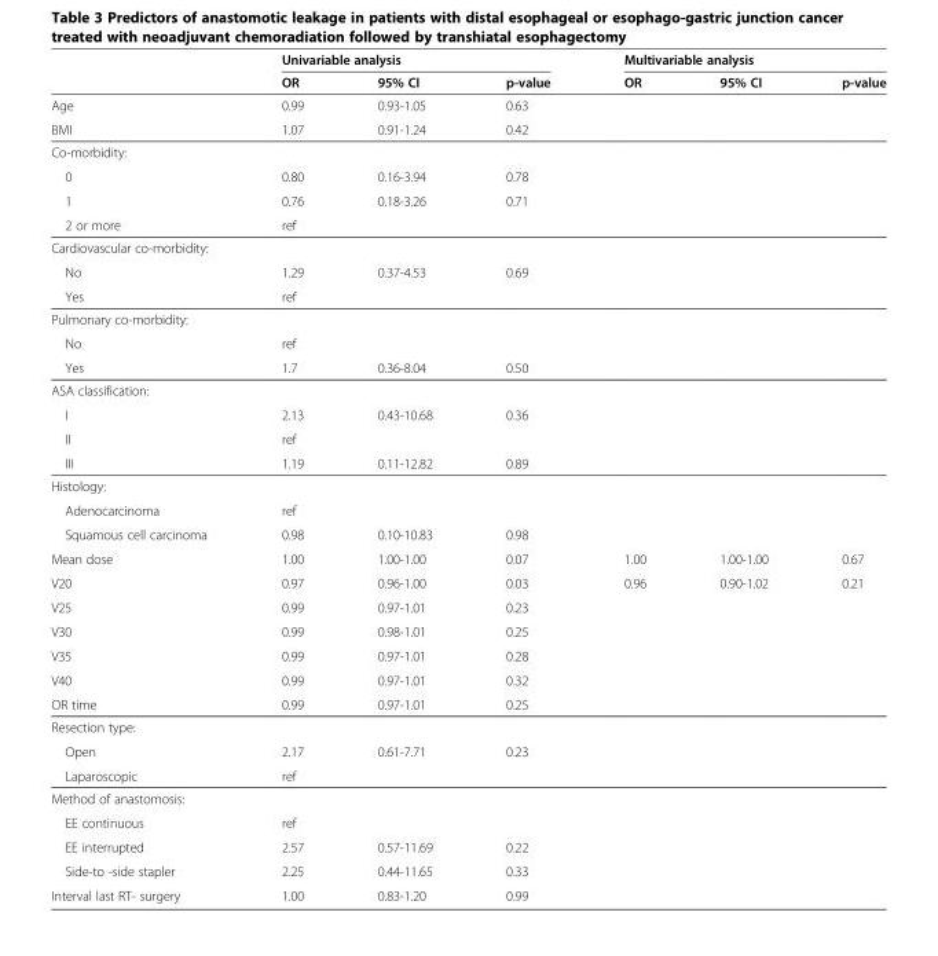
<table><thead><tr><td rowspan="2"></td><td colspan="3">Univariable analysis</td><td colspan="3">Multivariable analysis</td></tr><tr><td>OR</td><td>95% CI</td><td>p-value</td><td>OR</td><td>95% CI</td><td>p-value</td></tr></thead><tbody><tr><td>Age</td><td>0.99</td><td>0.93-1.05</td><td>0.63</td><td></td><td></td><td></td></tr><tr><td>BMI</td><td>1.07</td><td>0.91-1.24</td><td>0.42</td><td></td><td></td><td></td></tr><tr><td colspan="7">Co-morbidity:</td></tr><tr><td>0</td><td>0.80</td><td>0.16-3.94</td><td>0.78</td><td></td><td></td><td></td></tr><tr><td>1</td><td>0.76</td><td>0.18-3.26</td><td>0.71</td><td></td><td></td><td></td></tr><tr><td>2 or more</td><td>ref</td><td></td><td></td><td></td><td></td><td></td></tr><tr><td colspan="7">Cardiovascular co-morbidity:</td></tr><tr><td>No</td><td>1.29</td><td>0.37-4.53</td><td>0.69</td><td></td><td></td><td></td></tr><tr><td>Yes</td><td>ref</td><td></td><td></td><td></td><td></td><td></td></tr><tr><td colspan="7">Pulmonary co-morbidity:</td></tr><tr><td>No</td><td>ref</td><td></td><td></td><td></td><td></td><td></td></tr><tr><td>Yes</td><td>1.7</td><td>0.36-8.04</td><td>0.50</td><td></td><td></td><td></td></tr><tr><td colspan="7">ASA classification:</td></tr><tr><td>I</td><td>2.13</td><td>0.43-10.68</td><td>0.36</td><td></td><td></td><td></td></tr><tr><td>II</td><td>ref</td><td></td><td></td><td></td><td></td><td></td></tr><tr><td>III</td><td>1.19</td><td>0.11-12.82</td><td>0.89</td><td></td><td></td><td></td></tr><tr><td colspan="7">Histology:</td></tr><tr><td>Adenocarcinoma</td><td>ref</td><td></td><td></td><td></td><td></td><td></td></tr><tr><td>Squamous cell carcinoma</td><td>0.98</td><td>0.10-10.83</td><td>0.98</td><td></td><td></td><td></td></tr><tr><td>Mean dose</td><td>1.00</td><td>1.00-1.00</td><td>0.07</td><td>1.00</td><td>1.00-1.00</td><td>0.67</td></tr><tr><td>V20</td><td>0.97</td><td>0.96-1.00</td><td>0.03</td><td>0.96</td><td>0.90-1.02</td><td>0.21</td></tr><tr><td>V25</td><td>0.99</td><td>0.97-1.01</td><td>0.23</td><td></td><td></td><td></td></tr><tr><td>V30</td><td>0.99</td><td>0.98-1.01</td><td>0.25</td><td></td><td></td><td></td></tr><tr><td>V35</td><td>0.99</td><td>0.97-1.01</td><td>0.28</td><td></td><td></td><td></td></tr><tr><td>V40</td><td>0.99</td><td>0.97-1.01</td><td>0.32</td><td></td><td></td><td></td></tr><tr><td>OR time</td><td>0.99</td><td>0.97-1.01</td><td>0.25</td><td></td><td></td><td></td></tr><tr><td colspan="7">Resection type:</td></tr><tr><td>Open</td><td>2.17</td><td>0.61-7.71</td><td>0.23</td><td></td><td></td><td></td></tr><tr><td>Laparoscopic</td><td>ref</td><td></td><td></td><td></td><td></td><td></td></tr><tr><td colspan="7">Method of anastomosis:</td></tr><tr><td>EE continuous</td><td>ref</td><td></td><td></td><td></td><td></td><td></td></tr><tr><td>EE interrupted</td><td>2.57</td><td>0.57-11.69</td><td>0.22</td><td></td><td></td><td></td></tr><tr><td>Side-to -side stapler</td><td>2.25</td><td>0.44-11.65</td><td>0.33</td><td></td><td></td><td></td></tr><tr><td>Interval last RT- surgery</td><td>1.00</td><td>0.83-1.20</td><td>0.99</td><td></td><td></td><td></td></tr></tbody></table>